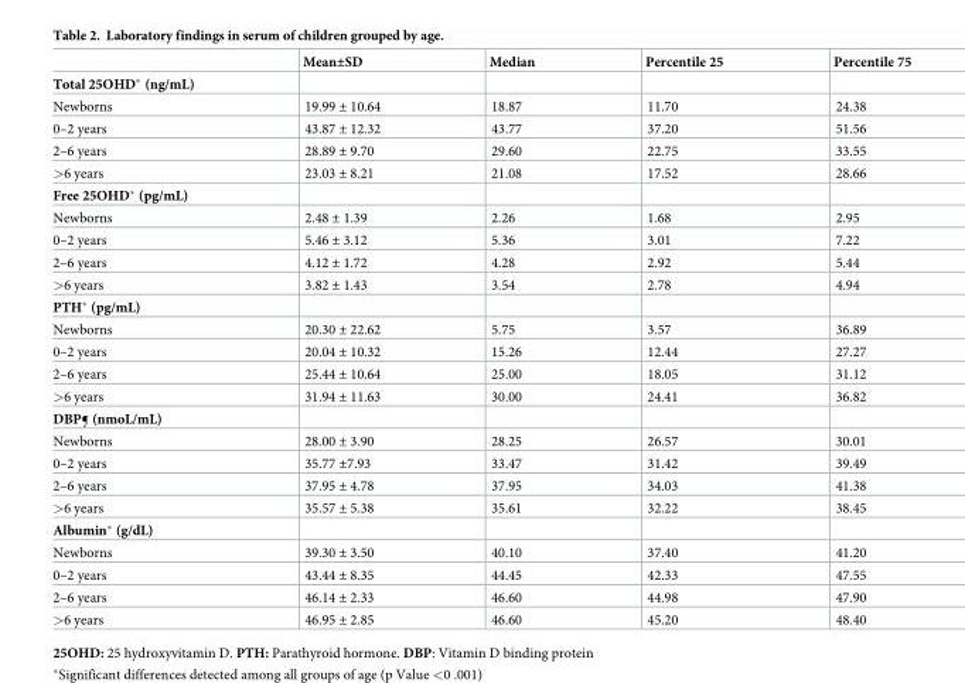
<table><thead><tr><td></td><td>Mean±SD</td><td>Median</td><td>Percentile 25</td><td>Percentile 75</td></tr></thead><tbody><tr><td colspan="5">Total 25OHD* (ng/mL)</td></tr><tr><td>Newborns</td><td>19.99 ± 10.64</td><td>18.87</td><td>11.70</td><td>24.38</td></tr><tr><td>0–2 years</td><td>43.87 ± 12.32</td><td>43.77</td><td>37.20</td><td>51.56</td></tr><tr><td>2–6 years</td><td>28.89 ± 9.70</td><td>29.60</td><td>22.75</td><td>33.55</td></tr><tr><td>&gt;6 years</td><td>23.03 ± 8.21</td><td>21.08</td><td>17.52</td><td>28.66</td></tr><tr><td colspan="5">Free 25OHD* (pg/mL)</td></tr><tr><td>Newborns</td><td>2.48 ± 1.39</td><td>2.26</td><td>1.68</td><td>2.95</td></tr><tr><td>0–2 years</td><td>5.46 ± 3.12</td><td>5.36</td><td>3.01</td><td>7.22</td></tr><tr><td>2–6 years</td><td>4.12 ± 1.72</td><td>4.28</td><td>2.92</td><td>5.44</td></tr><tr><td>&gt;6 years</td><td>3.82 ± 1.43</td><td>3.54</td><td>2.78</td><td>4.94</td></tr><tr><td colspan="5">PTH* (pg/mL)</td></tr><tr><td>Newborns</td><td>20.30 ± 22.62</td><td>5.75</td><td>3.57</td><td>36.89</td></tr><tr><td>0–2 years</td><td>20.04 ± 10.32</td><td>15.26</td><td>12.44</td><td>27.27</td></tr><tr><td>2–6 years</td><td>25.44 ± 10.64</td><td>25.00</td><td>18.05</td><td>31.12</td></tr><tr><td>&gt;6 years</td><td>31.94 ± 11.63</td><td>30.00</td><td>24.41</td><td>36.82</td></tr><tr><td colspan="5">DBP¶ (nmoL/mL)</td></tr><tr><td>Newborns</td><td>28.00 ± 3.90</td><td>28.25</td><td>26.57</td><td>30.01</td></tr><tr><td>0–2 years</td><td>35.77 ±7.93</td><td>33.47</td><td>31.42</td><td>39.49</td></tr><tr><td>2–6 years</td><td>37.95 ± 4.78</td><td>37.95</td><td>34.03</td><td>41.38</td></tr><tr><td>&gt;6 years</td><td>35.57 ± 5.38</td><td>35.61</td><td>32.22</td><td>38.45</td></tr><tr><td colspan="5">Albumin* (g/dL)</td></tr><tr><td>Newborns</td><td>39.30 ± 3.50</td><td>40.10</td><td>37.40</td><td>41.20</td></tr><tr><td>0–2 years</td><td>43.44 ± 8.35</td><td>44.45</td><td>42.33</td><td>47.55</td></tr><tr><td>2–6 years</td><td>46.14 ± 2.33</td><td>46.60</td><td>44.98</td><td>47.90</td></tr><tr><td>&gt;6 years</td><td>46.95 ± 2.85</td><td>46.60</td><td>45.20</td><td>48.40</td></tr></tbody></table>